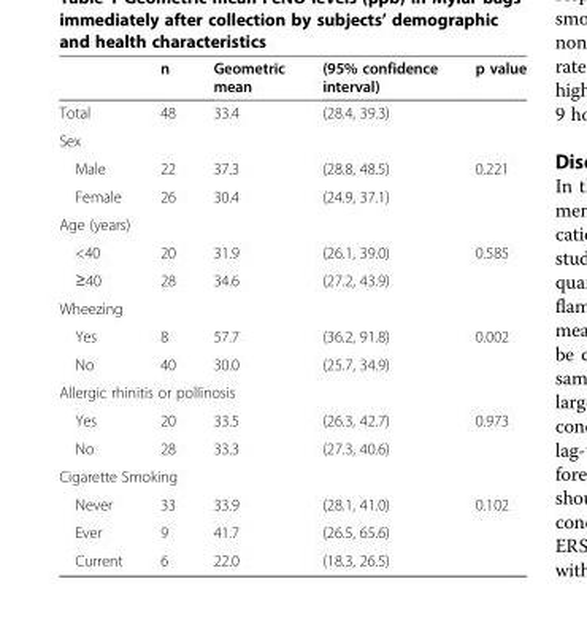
<table><thead><tr><td></td><td>n</td><td>Geometric mean</td><td>(95% confidence interval)</td><td>p value</td></tr></thead><tbody><tr><td>Total</td><td>48</td><td>33.4</td><td>(28.4, 39.3)</td><td></td></tr><tr><td colspan="5">Sex</td></tr><tr><td>Male</td><td>22</td><td>37.3</td><td>(28.8, 48.5)</td><td>0.221</td></tr><tr><td>Female</td><td>26</td><td>30.4</td><td>(24.9, 37.1)</td><td></td></tr><tr><td colspan="5">Age (years)</td></tr><tr><td>&lt;40</td><td>20</td><td>31.9</td><td>(26.1, 39.0)</td><td>0.585</td></tr><tr><td>≥40</td><td>28</td><td>34.6</td><td>(27.2, 43.9)</td><td></td></tr><tr><td colspan="5">Wheezing</td></tr><tr><td>Yes</td><td>8</td><td>57.7</td><td>(36.2, 91.8)</td><td>0.002</td></tr><tr><td>No</td><td>40</td><td>30.0</td><td>(25.7, 34.9)</td><td></td></tr><tr><td colspan="5">Allergic rhinitis or pollinosis</td></tr><tr><td>Yes</td><td>20</td><td>33.5</td><td>(26.3, 42.7)</td><td>0.973</td></tr><tr><td>No</td><td>28</td><td>33.3</td><td>(27.3, 40.6)</td><td></td></tr><tr><td colspan="5">Cigarette Smoking</td></tr><tr><td>Never</td><td>33</td><td>33.9</td><td>(28.1, 41.0)</td><td>0.102</td></tr><tr><td>Ever</td><td>9</td><td>41.7</td><td>(26.5, 65.6)</td><td></td></tr><tr><td>Current</td><td>6</td><td>22.0</td><td>(18.3, 26.5)</td><td></td></tr></tbody></table>